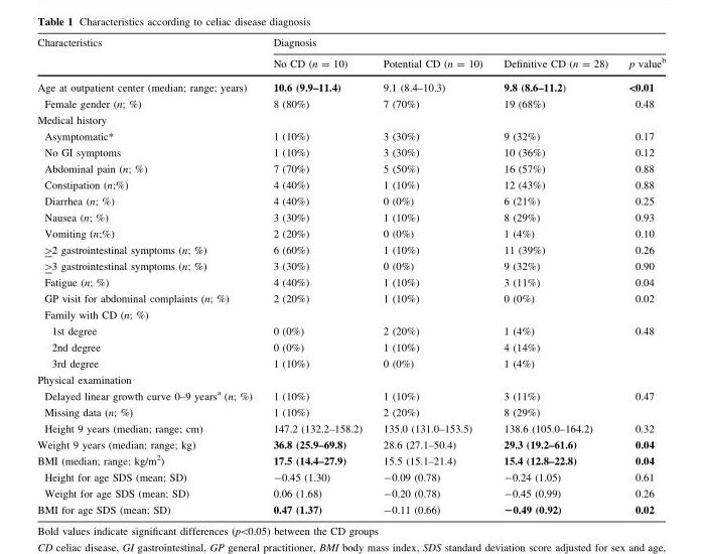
<table><thead><tr><td rowspan="2">Characteristics</td><td colspan="4">Diagnosis</td></tr><tr><td>No CD (n = 10)</td><td>Potential CD (n = 10)</td><td>Definitive CD (n = 28)</td><td>p value<sup>b</sup></td></tr></thead><tbody><tr><td>Age at outpatient center (median; range; years)</td><td>10.6 (9.9–11.4)</td><td>9.1 (8.4–10.3)</td><td>9.8 (8.6–11.2)</td><td>&lt;0.01</td></tr><tr><td>Female gender (n; %)</td><td>8 (80%)</td><td>7 (70%)</td><td>19 (68%)</td><td>0.48</td></tr><tr><td colspan="5">Medical history</td></tr><tr><td>Asymptomatic*</td><td>1 (10%)</td><td>3 (30%)</td><td>9 (32%)</td><td>0.17</td></tr><tr><td>No GI symptoms</td><td>1 (10%)</td><td>3 (30%)</td><td>10 (36%)</td><td>0.12</td></tr><tr><td>Abdominal pain (n; %)</td><td>7 (70%)</td><td>5 (50%)</td><td>16 (57%)</td><td>0.88</td></tr><tr><td>Constipation (n;%)</td><td>4 (40%)</td><td>1 (10%)</td><td>12 (43%)</td><td>0.88</td></tr><tr><td>Diarrhea (n; %)</td><td>4 (40%)</td><td>0 (0%)</td><td>6 (21%)</td><td>0.25</td></tr><tr><td>Nausea (n; %)</td><td>3 (30%)</td><td>1 (10%)</td><td>8 (29%)</td><td>0.93</td></tr><tr><td>Vomiting (n;%)</td><td>2 (20%)</td><td>0 (0%)</td><td>1 (4%)</td><td>0.10</td></tr><tr><td>&gt;2 gastrointestinal symptoms (n; %)</td><td>6 (60%)</td><td>1 (10%)</td><td>11 (39%)</td><td>0.26</td></tr><tr><td>&gt;3 gastrointestinal symptoms (n; %)</td><td>3 (30%)</td><td>0 (0%)</td><td>9 (32%)</td><td>0.90</td></tr><tr><td>Fatigue (n; %)</td><td>4 (40%)</td><td>1 (10%)</td><td>3 (11%)</td><td>0.04</td></tr><tr><td>GP visit for abdominal complaints (n; %)</td><td>2 (20%)</td><td>1 (10%)</td><td>0 (0%)</td><td>0.02</td></tr><tr><td colspan="5">Family with CD (n; %)</td></tr><tr><td>1st degree</td><td>0 (0%)</td><td>2 (20%)</td><td>1 (4%)</td><td rowspan="3">0.48</td></tr><tr><td>2nd degree</td><td>0 (0%)</td><td>1 (10%)</td><td>4 (14%)</td></tr><tr><td>3rd degree</td><td>1 (10%)</td><td>0 (0%)</td><td>1 (4%)</td></tr><tr><td colspan="5">Physical examination</td></tr><tr><td>Delayed linear growth curve 0–9 years<sup>a</sup> (n; %)</td><td>1 (10%)</td><td>1 (10%)</td><td>3 (11%)</td><td rowspan="2">0.47</td></tr><tr><td>Missing data (n; %)</td><td>1 (10%)</td><td>2 (20%)</td><td>8 (29%)</td></tr><tr><td>Height 9 years (median; range; cm)</td><td>147.2 (132.2–158.2)</td><td>135.0 (131.0–153.5)</td><td>138.6 (105.0–164.2)</td><td>0.32</td></tr><tr><td>Weight 9 years (median; range; kg)</td><td>36.8 (25.9–69.8)</td><td>28.6 (27.1–50.4)</td><td>29.3 (19.2–61.6)</td><td>0.04</td></tr><tr><td>BMI (median; range; kg/m<sup>2</sup>)</td><td>17.5 (14.4–27.9)</td><td>15.5 (15.1–21.4)</td><td>15.4 (12.8–22.8)</td><td>0.04</td></tr><tr><td>Height for age SDS (mean; SD)</td><td>-0.45 (1.30)</td><td>-0.09 (0.78)</td><td>-0.24 (1.05)</td><td>0.61</td></tr><tr><td>Weight for age SDS (mean; SD)</td><td>0.06 (1.68)</td><td>-0.20 (0.78)</td><td>-0.45 (0.99)</td><td>0.26</td></tr><tr><td>BMI for age SDS (mean; SD)</td><td>0.47 (1.37)</td><td>-0.11 (0.66)</td><td>−0.49 (0.92)</td><td>0.02</td></tr></tbody></table>